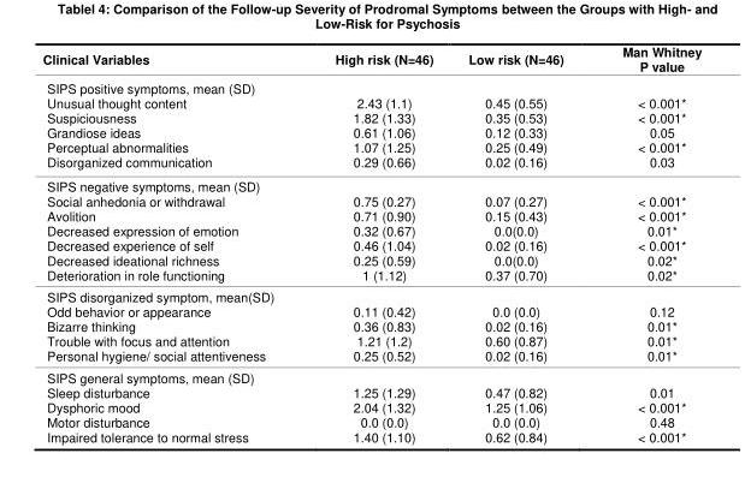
<table><thead><tr><td>Clinical Variables</td><td>High risk (N=46)</td><td>Low risk (N=46)</td><td>Man Whitney P value</td></tr></thead><tbody><tr><td>SIPS positive symptoms, mean (SD) Unusual thought content Suspiciousness Grandiose ideas Perceptual abnormalities Disorganized communication</td><td>2.43 (1.1) 1.82 (1.33) 0.61 (1.06) 1.07 (1.25) 0.29 (0.66)</td><td>0.45 (0.55) 0.35 (0.53) 0.12 (0.33) 0.25 (0.49) 0.02 (0.16)</td><td>&lt; 0.001* &lt; 0.001* 0.05 &lt; 0.001* 0.03</td></tr><tr><td>SIPS negative symptoms, mean (SD) Social anhedonia or withdrawal Avolition Decreased expression of emotion Decreased experience of self Decreased ideational richness Deterioration in role functioning</td><td>0.75 (0.27) 0.71 (0.90) 0.32 (0.67) 0.46 (1.04) 0.25 (0.59) 1 (1.12)</td><td>0.07 (0.27) 0.15 (0.43) 0.0(0.0) 0.02 (0.16) 0.0(0.0) 0.37 (0.70)</td><td>&lt; 0.001* &lt; 0.001* 0.01* &lt; 0.001* 0.02* 0.02*</td></tr><tr><td>SIPS disorganized symptom, mean(SD) Odd behavior or appearance Bizarre thinking Trouble with focus and attention Personal hygiene/ social attentiveness</td><td>0.11 (0.42) 0.36 (0.83) 1.21 (1.2) 0.25 (0.52)</td><td>0.0 (0.0) 0.02 (0.16) 0.60 (0.87) 0.02 (0.16)</td><td>0.12 0.01* 0.01* 0.01*</td></tr><tr><td>SIPS general symptoms, mean (SD) Sleep disturbance Dysphoric mood Motor disturbance Impaired tolerance to normal stress</td><td>1.25 (1.29) 2.04 (1.32) 0.0 (0.0) 1.40 (1.10)</td><td>0.47 (0.82) 1.25 (1.06) 0.0 (0.0) 0.62 (0.84)</td><td>0.01 &lt; 0.001* 0.48 &lt; 0.001*</td></tr></tbody></table>